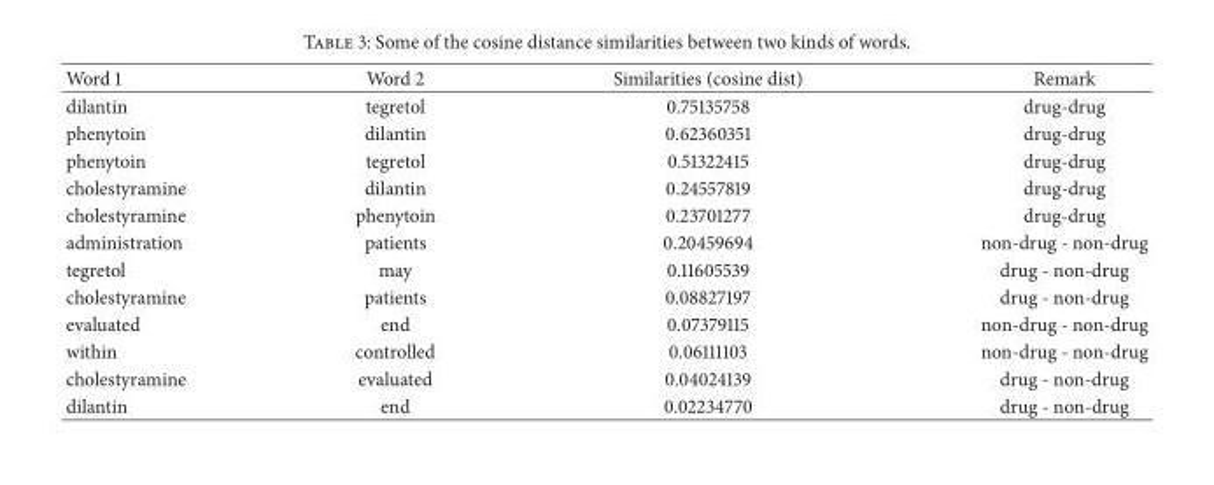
<table><thead><tr><td>Word 1</td><td>Word 2</td><td>Similarities (cosine dist)</td><td>Remark</td></tr></thead><tbody><tr><td>dilantin</td><td>tegretol</td><td>0.75135758</td><td>drug-drug</td></tr><tr><td>phenytoin</td><td>dilantin</td><td>0.62360351</td><td>drug-drug</td></tr><tr><td>phenytoin</td><td>tegretol</td><td>0.51322415</td><td>drug-drug</td></tr><tr><td>cholestyramine</td><td>dilantin</td><td>0.24557819</td><td>drug-drug</td></tr><tr><td>cholestyramine</td><td>phenytoin</td><td>0.23701277</td><td>drug-drug</td></tr><tr><td>administration</td><td>patients</td><td>0.20459694</td><td>non-drug - non-drug</td></tr><tr><td>tegretol</td><td>may</td><td>0.11605539</td><td>drug - non-drug</td></tr><tr><td>cholestyramine</td><td>patients</td><td>0.08827197</td><td>drug - non-drug</td></tr><tr><td>evaluated</td><td>end</td><td>0.07379115</td><td>non-drug - non-drug</td></tr><tr><td>within</td><td>controlled</td><td>0.06111103</td><td>non-drug - non-drug</td></tr><tr><td>cholestyramine</td><td>evaluated</td><td>0.04024139</td><td>drug - non-drug</td></tr><tr><td>dilantin</td><td>end</td><td>0.02234770</td><td>drug - non-drug</td></tr></tbody></table>